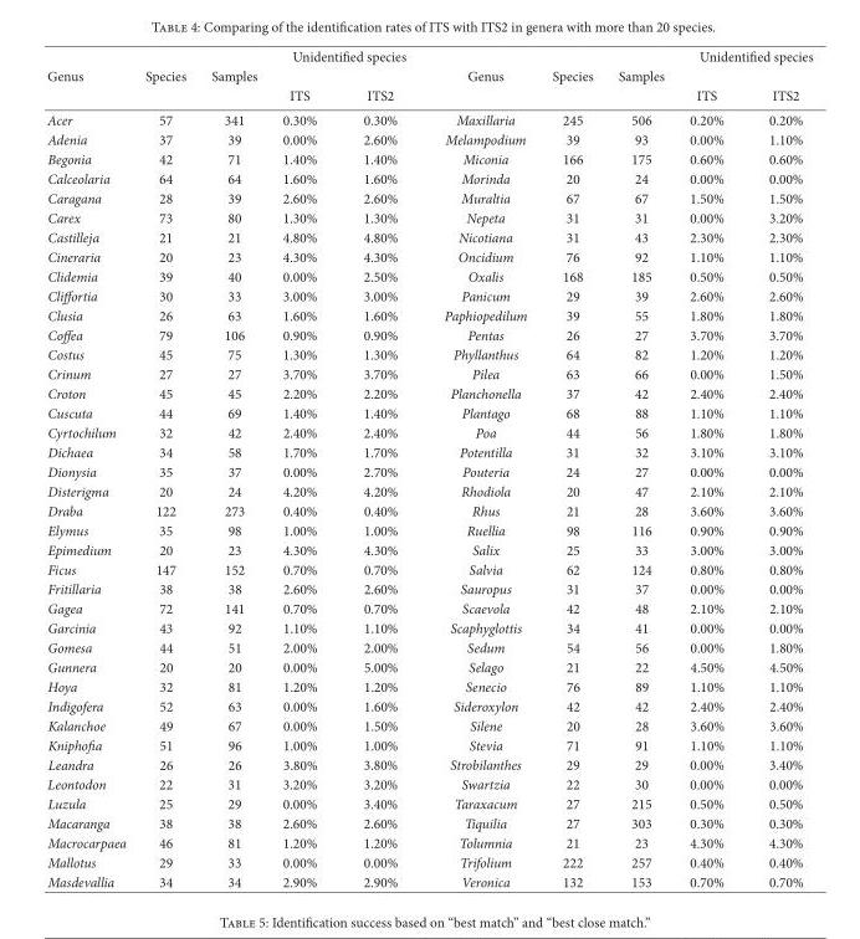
<table><thead><tr><td rowspan="3">Genus</td><td rowspan="3">Species</td><td rowspan="3">Samples</td><td colspan="2">�nidenti�ed species</td><td rowspan="3">Genus</td><td rowspan="3">Species</td><td rowspan="3">Samples</td><td colspan="2">�nidenti�ed species</td></tr><tr><td rowspan="2">ITS</td><td rowspan="2">ITS2</td><td rowspan="2">ITS</td><td rowspan="2">ITS2</td></tr><tr></tr></thead><tbody><tr><td>Acer</td><td>57</td><td>341</td><td>0.30%</td><td>0.30%</td><td>Maxillaria</td><td>245</td><td>506</td><td>0.20%</td><td>0.20%</td></tr><tr><td>Adenia</td><td>37</td><td>39</td><td>0.00%</td><td>2.60%</td><td>Melampodium</td><td>39</td><td>93</td><td>0.00%</td><td>1.10%</td></tr><tr><td>Begonia</td><td>42</td><td>71</td><td>1.40%</td><td>1.40%</td><td>Miconia</td><td>166</td><td>175</td><td>0.60%</td><td>0.60%</td></tr><tr><td>Calceolaria</td><td>64</td><td>64</td><td>1.60%</td><td>1.60%</td><td>Morinda</td><td>20</td><td>24</td><td>0.00%</td><td>0.00%</td></tr><tr><td>Caragana</td><td>28</td><td>39</td><td>2.60%</td><td>2.60%</td><td>Muraltia</td><td>67</td><td>67</td><td>1.50%</td><td>1.50%</td></tr><tr><td>Carex</td><td>73</td><td>80</td><td>1.30%</td><td>1.30%</td><td>Nepeta</td><td>31</td><td>31</td><td>0.00%</td><td>3.20%</td></tr><tr><td>Castilleja</td><td>21</td><td>21</td><td>4.80%</td><td>4.80%</td><td>Nicotiana</td><td>31</td><td>43</td><td>2.30%</td><td>2.30%</td></tr><tr><td>Cineraria</td><td>20</td><td>23</td><td>4.30%</td><td>4.30%</td><td>Oncidium</td><td>76</td><td>92</td><td>1.10%</td><td>1.10%</td></tr><tr><td>Clidemia</td><td>39</td><td>40</td><td>0.00%</td><td>2.50%</td><td>Oxalis</td><td>168</td><td>185</td><td>0.50%</td><td>0.50%</td></tr><tr><td>Cliffortia</td><td>30</td><td>33</td><td>3.00%</td><td>3.00%</td><td>Panicum</td><td>29</td><td>39</td><td>2.60%</td><td>2.60%</td></tr><tr><td>Clusia</td><td>26</td><td>63</td><td>1.60%</td><td>1.60%</td><td>Paphiopedilum</td><td>39</td><td>55</td><td>1.80%</td><td>1.80%</td></tr><tr><td>Coffea</td><td>79</td><td>106</td><td>0.90%</td><td>0.90%</td><td>Pentas</td><td>26</td><td>27</td><td>3.70%</td><td>3.70%</td></tr><tr><td>Costus</td><td>45</td><td>75</td><td>1.30%</td><td>1.30%</td><td>Phyllanthus</td><td>64</td><td>82</td><td>1.20%</td><td>1.20%</td></tr><tr><td>Crinum</td><td>27</td><td>27</td><td>3.70%</td><td>3.70%</td><td>Pilea</td><td>63</td><td>66</td><td>0.00%</td><td>1.50%</td></tr><tr><td>Croton</td><td>45</td><td>45</td><td>2.20%</td><td>2.20%</td><td>Planchonella</td><td>37</td><td>42</td><td>2.40%</td><td>2.40%</td></tr><tr><td>Cuscuta</td><td>44</td><td>69</td><td>1.40%</td><td>1.40%</td><td>Plantago</td><td>68</td><td>88</td><td>1.10%</td><td>1.10%</td></tr><tr><td>Cyrtochilum</td><td>32</td><td>42</td><td>2.40%</td><td>2.40%</td><td>Poa</td><td>44</td><td>56</td><td>1.80%</td><td>1.80%</td></tr><tr><td>Dichaea</td><td>34</td><td>58</td><td>1.70%</td><td>1.70%</td><td>Potentilla</td><td>31</td><td>32</td><td>3.10%</td><td>3.10%</td></tr><tr><td>Dionysia</td><td>35</td><td>37</td><td>0.00%</td><td>2.70%</td><td>Pouteria</td><td>24</td><td>27</td><td>0.00%</td><td>0.00%</td></tr><tr><td>Disterigma</td><td>20</td><td>24</td><td>4.20%</td><td>4.20%</td><td>Rhodiola</td><td>20</td><td>47</td><td>2.10%</td><td>2.10%</td></tr><tr><td>Draba</td><td>122</td><td>273</td><td>0.40%</td><td>0.40%</td><td>Rhus</td><td>21</td><td>28</td><td>3.60%</td><td>3.60%</td></tr><tr><td>Elymus</td><td>35</td><td>98</td><td>1.00%</td><td>1.00%</td><td>Ruellia</td><td>98</td><td>116</td><td>0.90%</td><td>0.90%</td></tr><tr><td>Epimedium</td><td>20</td><td>23</td><td>4.30%</td><td>4.30%</td><td>Salix</td><td>25</td><td>33</td><td>3.00%</td><td>3.00%</td></tr><tr><td>Ficus</td><td>147</td><td>152</td><td>0.70%</td><td>0.70%</td><td>Salvia</td><td>62</td><td>124</td><td>0.80%</td><td>0.80%</td></tr><tr><td>Fritillaria</td><td>38</td><td>38</td><td>2.60%</td><td>2.60%</td><td>Sauropus</td><td>31</td><td>37</td><td>0.00%</td><td>0.00%</td></tr><tr><td>Gagea</td><td>72</td><td>141</td><td>0.70%</td><td>0.70%</td><td>Scaevola</td><td>42</td><td>48</td><td>2.10%</td><td>2.10%</td></tr><tr><td>Garcinia</td><td>43</td><td>92</td><td>1.10%</td><td>1.10%</td><td>Scaphyglottis</td><td>34</td><td>41</td><td>0.00%</td><td>0.00%</td></tr><tr><td>Gomesa</td><td>44</td><td>51</td><td>2.00%</td><td>2.00%</td><td>Sedum</td><td>54</td><td>56</td><td>0.00%</td><td>1.80%</td></tr><tr><td>Gunnera</td><td>20</td><td>20</td><td>0.00%</td><td>5.00%</td><td>Selago</td><td>21</td><td>22</td><td>4.50%</td><td>4.50%</td></tr><tr><td>Hoya</td><td>32</td><td>81</td><td>1.20%</td><td>1.20%</td><td>Senecio</td><td>76</td><td>89</td><td>1.10%</td><td>1.10%</td></tr><tr><td>Indigofera</td><td>52</td><td>63</td><td>0.00%</td><td>1.60%</td><td>Sideroxylon</td><td>42</td><td>42</td><td>2.40%</td><td>2.40%</td></tr><tr><td>Kalanchoe</td><td>49</td><td>67</td><td>0.00%</td><td>1.50%</td><td>Silene</td><td>20</td><td>28</td><td>3.60%</td><td>3.60%</td></tr><tr><td>Knipho�a</td><td>51</td><td>96</td><td>1.00%</td><td>1.00%</td><td>Stevia</td><td>71</td><td>91</td><td>1.10%</td><td>1.10%</td></tr><tr><td>Leandra</td><td>26</td><td>26</td><td>3.80%</td><td>3.80%</td><td>Strobilanthes</td><td>29</td><td>29</td><td>0.00%</td><td>3.40%</td></tr><tr><td>Leontodon</td><td>22</td><td>31</td><td>3.20%</td><td>3.20%</td><td>Swartzia</td><td>22</td><td>30</td><td>0.00%</td><td>0.00%</td></tr><tr><td>Luzula</td><td>25</td><td>29</td><td>0.00%</td><td>3.40%</td><td>Taraxacum</td><td>27</td><td>215</td><td>0.50%</td><td>0.50%</td></tr><tr><td>Macaranga</td><td>38</td><td>38</td><td>2.60%</td><td>2.60%</td><td>Tiquilia</td><td>27</td><td>303</td><td>0.30%</td><td>0.30%</td></tr><tr><td>Macrocarpaea</td><td>46</td><td>81</td><td>1.20%</td><td>1.20%</td><td>Tolumnia</td><td>21</td><td>23</td><td>4.30%</td><td>4.30%</td></tr><tr><td>Mallotus</td><td>29</td><td>33</td><td>0.00%</td><td>0.00%</td><td>Trifolium</td><td>222</td><td>257</td><td>0.40%</td><td>0.40%</td></tr><tr><td>Masdevallia</td><td>34</td><td>34</td><td>2.90%</td><td>2.90%</td><td>Veronica</td><td>132</td><td>153</td><td>0.70%</td><td>0.70%</td></tr></tbody></table>